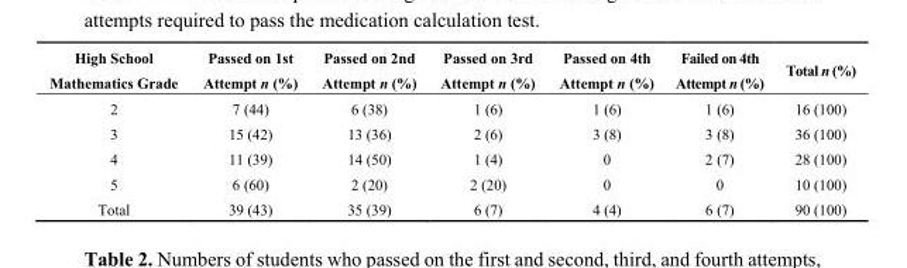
<table><thead><tr><td>High School Mathematics Grade</td><td>Passed on 1st Attempt n (%)</td><td>Passed on 2nd Attempt n (%)</td><td>Passed on 3rd Attempt n (%)</td><td>Passed on 4th Attempt n (%)</td><td>Failed on 4th Attempt n (%)</td><td>Total n (%)</td></tr></thead><tbody><tr><td>2</td><td>7 (44)</td><td>6 (38)</td><td>1 (6)</td><td>1 (6)</td><td>1 (6)</td><td>16 (100)</td></tr><tr><td>3</td><td>15 (42)</td><td>13 (36)</td><td>2 (6)</td><td>3 (8)</td><td>3 (8)</td><td>36 (100)</td></tr><tr><td>4</td><td>11 (39)</td><td>14 (50)</td><td>1 (4)</td><td>0</td><td>2 (7)</td><td>28 (100)</td></tr><tr><td>5</td><td>6 (60)</td><td>2 (20)</td><td>2 (20)</td><td>0</td><td>0</td><td>10 (100)</td></tr><tr><td>Total</td><td>39 (43)</td><td>35 (39)</td><td>6 (7)</td><td>4 (4)</td><td>6 (7)</td><td>90 (100)</td></tr></tbody></table>